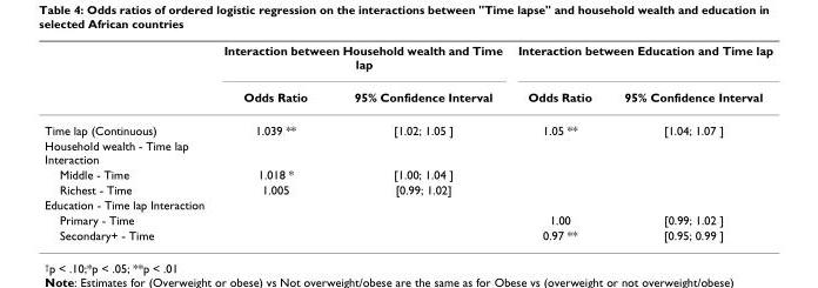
<table><thead><tr><td rowspan="2"></td><td colspan="2">Interaction between Household wealth and Time lap</td><td colspan="2">Interaction between Education and Time lap</td></tr><tr><td>Odds Ratio</td><td>95% Confidence Interval</td><td>Odds Ratio</td><td>95% Confidence Interval</td></tr></thead><tbody><tr><td>Time lap (Continuous)</td><td>1.039 **</td><td>[1.02; 1.05 ]</td><td>1.05 **</td><td>[1.04; 1.07 ]</td></tr><tr><td colspan="5">Household wealth - Time lap Interaction</td></tr><tr><td>Middle - Time</td><td>1.018 *</td><td>[1.00; 1.04 ]</td><td></td><td></td></tr><tr><td>Richest - Time</td><td>1.005</td><td>[0.99; 1.02]</td><td></td><td></td></tr><tr><td colspan="5">Education - Time lap Interaction</td></tr><tr><td>Primary - Time</td><td></td><td></td><td>1.00</td><td>[0.99; 1.02 ]</td></tr><tr><td>Secondary+ - Time</td><td></td><td></td><td>0.97 **</td><td>[0.95; 0.99 ]</td></tr></tbody></table>